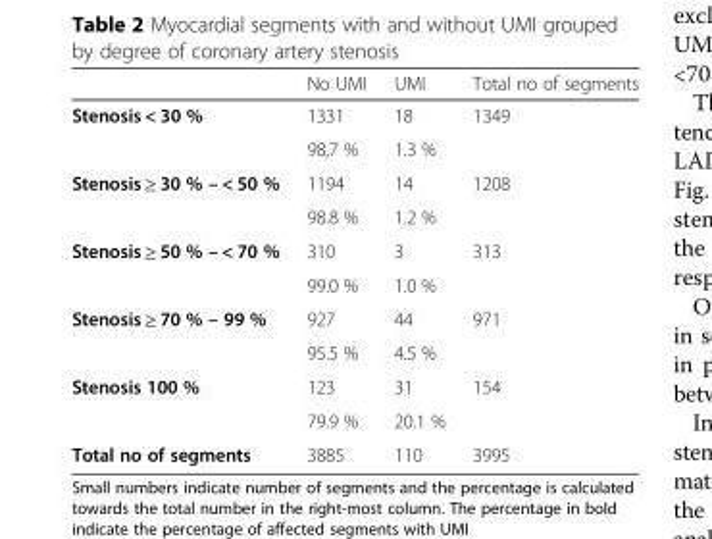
<table><thead><tr><td></td><td>No UMI</td><td>UMI</td><td>Total no of segments</td></tr></thead><tbody><tr><td rowspan="2">Stenosis &lt; 30 %</td><td>1331</td><td>18</td><td>1349</td></tr><tr><td>98,7 %</td><td>1.3 %</td><td></td></tr><tr><td rowspan="2">Stenosis ≥ 30 % – &lt; 50 %</td><td>1194</td><td>14</td><td>1208</td></tr><tr><td>98.8 %</td><td>1.2 %</td><td></td></tr><tr><td rowspan="2">Stenosis ≥ 50 % – &lt; 70 %</td><td>310</td><td>3</td><td>313</td></tr><tr><td>99.0 %</td><td>1.0 %</td><td></td></tr><tr><td rowspan="2">Stenosis ≥ 70 % – 99 %</td><td>927</td><td>44</td><td>971</td></tr><tr><td>95.5 %</td><td>4.5 %</td><td></td></tr><tr><td rowspan="2">Stenosis 100 %</td><td>123</td><td>31</td><td>154</td></tr><tr><td>79.9 %</td><td>20.1 %</td><td></td></tr><tr><td>Total no of segments</td><td>3885</td><td>110</td><td>3995</td></tr></tbody></table>